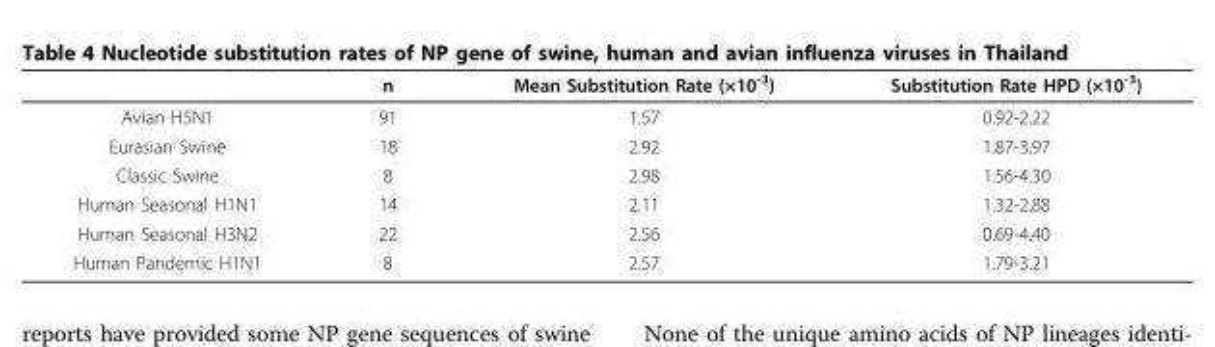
<table><thead><tr><td></td><td>n</td><td>Mean Substitution Rate (×10<sup>-3</sup>)</td><td>Substitution Rate HPD (×10<sup>-3</sup>)</td></tr></thead><tbody><tr><td>Avian H5N1</td><td>91</td><td>1.57</td><td>0.92-2.22</td></tr><tr><td>Eurasian Swine</td><td>18</td><td>2.92</td><td>1.87-3.97</td></tr><tr><td>Classic Swine</td><td>8</td><td>2.98</td><td>1.56-4.30</td></tr><tr><td>Human Seasonal H1N1</td><td>14</td><td>2.11</td><td>1.32-2.88</td></tr><tr><td>Human Seasonal H3N2</td><td>22</td><td>2.56</td><td>0.69-4.40</td></tr><tr><td>Human Pandemic H1N1</td><td>8</td><td>2.57</td><td>1.79-3.21</td></tr></tbody></table>